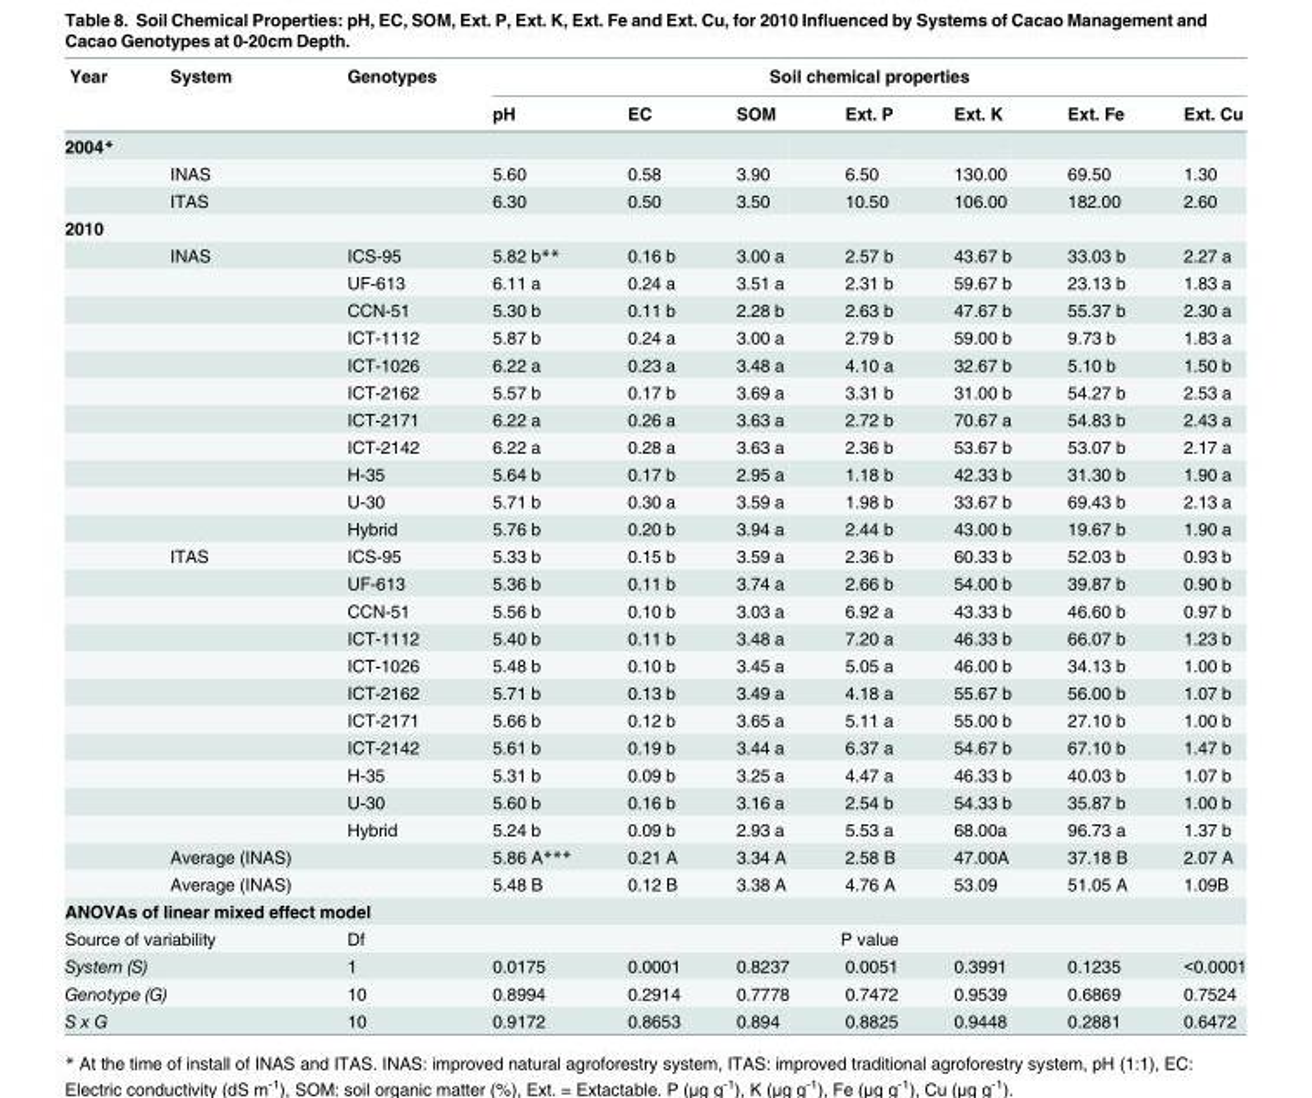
<table><thead><tr><td rowspan="2">Year</td><td rowspan="2">System</td><td rowspan="2">Genotypes</td><td colspan="7">Soil chemical properties</td></tr><tr><td>pH</td><td>EC</td><td>SOM</td><td>Ext. P</td><td>Ext. K</td><td>Ext. Fe</td><td>Ext. Cu</td></tr></thead><tbody><tr><td colspan="10">2004*</td></tr><tr><td></td><td>INAS</td><td></td><td>5.60</td><td>0.58</td><td>3.90</td><td>6.50</td><td>130.00</td><td>69.50</td><td>1.30</td></tr><tr><td></td><td>ITAS</td><td></td><td>6.30</td><td>0.50</td><td>3.50</td><td>10.50</td><td>106.00</td><td>182.00</td><td>2.60</td></tr><tr><td colspan="10">2010</td></tr><tr><td></td><td>INAS</td><td>ICS-95</td><td>5.82 b**</td><td>0.16 b</td><td>3.00 a</td><td>2.57 b</td><td>43.67 b</td><td>33.03 b</td><td>2.27 a</td></tr><tr><td></td><td></td><td>UF-613</td><td>6.11 a</td><td>0.24 a</td><td>3.51 a</td><td>2.31 b</td><td>59.67 b</td><td>23.13 b</td><td>1.83 a</td></tr><tr><td></td><td></td><td>CCN-51</td><td>5.30 b</td><td>0.11 b</td><td>2.28 b</td><td>2.63 b</td><td>47.67 b</td><td>55.37 b</td><td>2.30 a</td></tr><tr><td></td><td></td><td>ICT-1112</td><td>5.87 b</td><td>0.24 a</td><td>3.00 a</td><td>2.79 b</td><td>59.00 b</td><td>9.73 b</td><td>1.83 a</td></tr><tr><td></td><td></td><td>ICT-1026</td><td>6.22 a</td><td>0.23 a</td><td>3.48 a</td><td>4.10 a</td><td>32.67 b</td><td>5.10 b</td><td>1.50 b</td></tr><tr><td></td><td></td><td>ICT-2162</td><td>5.57 b</td><td>0.17 b</td><td>3.69 a</td><td>3.31 b</td><td>31.00 b</td><td>54.27 b</td><td>2.53 a</td></tr><tr><td></td><td></td><td>ICT-2171</td><td>6.22 a</td><td>0.26 a</td><td>3.63 a</td><td>2.72 b</td><td>70.67 a</td><td>54.83 b</td><td>2.43 a</td></tr><tr><td></td><td></td><td>ICT-2142</td><td>6.22 a</td><td>0.28 a</td><td>3.63 a</td><td>2.36 b</td><td>53.67 b</td><td>53.07 b</td><td>2.17 a</td></tr><tr><td></td><td></td><td>H-35</td><td>5.64 b</td><td>0.17 b</td><td>2.95 a</td><td>1.18 b</td><td>42.33 b</td><td>31.30 b</td><td>1.90 a</td></tr><tr><td></td><td></td><td>U-30</td><td>5.71 b</td><td>0.30 a</td><td>3.59 a</td><td>1.98 b</td><td>33.67 b</td><td>69.43 b</td><td>2.13 a</td></tr><tr><td></td><td></td><td>Hybrid</td><td>5.76 b</td><td>0.20 b</td><td>3.94 a</td><td>2.44 b</td><td>43.00 b</td><td>19.67 b</td><td>1.90 a</td></tr><tr><td></td><td>ITAS</td><td>ICS-95</td><td>5.33 b</td><td>0.15 b</td><td>3.59 a</td><td>2.36 b</td><td>60.33 b</td><td>52.03 b</td><td>0.93 b</td></tr><tr><td></td><td></td><td>UF-613</td><td>5.36 b</td><td>0.11 b</td><td>3.74 a</td><td>2.66 b</td><td>54.00 b</td><td>39.87 b</td><td>0.90 b</td></tr><tr><td></td><td></td><td>CCN-51</td><td>5.56 b</td><td>0.10 b</td><td>3.03 a</td><td>6.92 a</td><td>43.33 b</td><td>46.60 b</td><td>0.97 b</td></tr><tr><td></td><td></td><td>ICT-1112</td><td>5.40 b</td><td>0.11 b</td><td>3.48 a</td><td>7.20 a</td><td>46.33 b</td><td>66.07 b</td><td>1.23 b</td></tr><tr><td></td><td></td><td>ICT-1026</td><td>5.48 b</td><td>0.10 b</td><td>3.45 a</td><td>5.05 a</td><td>46.00 b</td><td>34.13 b</td><td>1.00 b</td></tr><tr><td></td><td></td><td>ICT-2162</td><td>5.71 b</td><td>0.13 b</td><td>3.49 a</td><td>4.18 a</td><td>55.67 b</td><td>56.00 b</td><td>1.07 b</td></tr><tr><td></td><td></td><td>ICT-2171</td><td>5.66 b</td><td>0.12 b</td><td>3.65 a</td><td>5.11 a</td><td>55.00 b</td><td>27.10 b</td><td>1.00 b</td></tr><tr><td></td><td></td><td>ICT-2142</td><td>5.61 b</td><td>0.19 b</td><td>3.44 a</td><td>6.37 a</td><td>54.67 b</td><td>67.10 b</td><td>1.47 b</td></tr><tr><td></td><td></td><td>H-35</td><td>5.31 b</td><td>0.09 b</td><td>3.25 a</td><td>4.47 a</td><td>46.33 b</td><td>40.03 b</td><td>1.07 b</td></tr><tr><td></td><td></td><td>U-30</td><td>5.60 b</td><td>0.16 b</td><td>3.16 a</td><td>2.54 b</td><td>54.33 b</td><td>35.87 b</td><td>1.00 b</td></tr><tr><td></td><td></td><td>Hybrid</td><td>5.24 b</td><td>0.09 b</td><td>2.93 a</td><td>5.53 a</td><td>68.00a</td><td>96.73 a</td><td>1.37 b</td></tr><tr><td></td><td>Average (INAS)</td><td></td><td>5.86 A***</td><td>0.21 A</td><td>3.34 A</td><td>2.58 B</td><td>47.00A</td><td>37.18 B</td><td>2.07 A</td></tr><tr><td></td><td>Average (INAS)</td><td></td><td>5.48 B</td><td>0.12 B</td><td>3.38 A</td><td>4.76 A</td><td>53.09</td><td>51.05 A</td><td>1.09B</td></tr><tr><td colspan="10">ANOVAs of linear mixed effect model</td></tr><tr><td colspan="2">Source of variability</td><td>Df</td><td colspan="7">P value</td></tr><tr><td colspan="2">System (S)</td><td>1</td><td>0.0175</td><td>0.0001</td><td>0.8237</td><td>0.0051</td><td>0.3991</td><td>0.1235</td><td>&lt;0.0001</td></tr><tr><td colspan="2">Genotype (G)</td><td>10</td><td>0.8994</td><td>0.2914</td><td>0.7778</td><td>0.7472</td><td>0.9539</td><td>0.6869</td><td>0.7524</td></tr><tr><td colspan="2">S x G</td><td>10</td><td>0.9172</td><td>0.8653</td><td>0.894</td><td>0.8825</td><td>0.9448</td><td>0.2881</td><td>0.6472</td></tr></tbody></table>